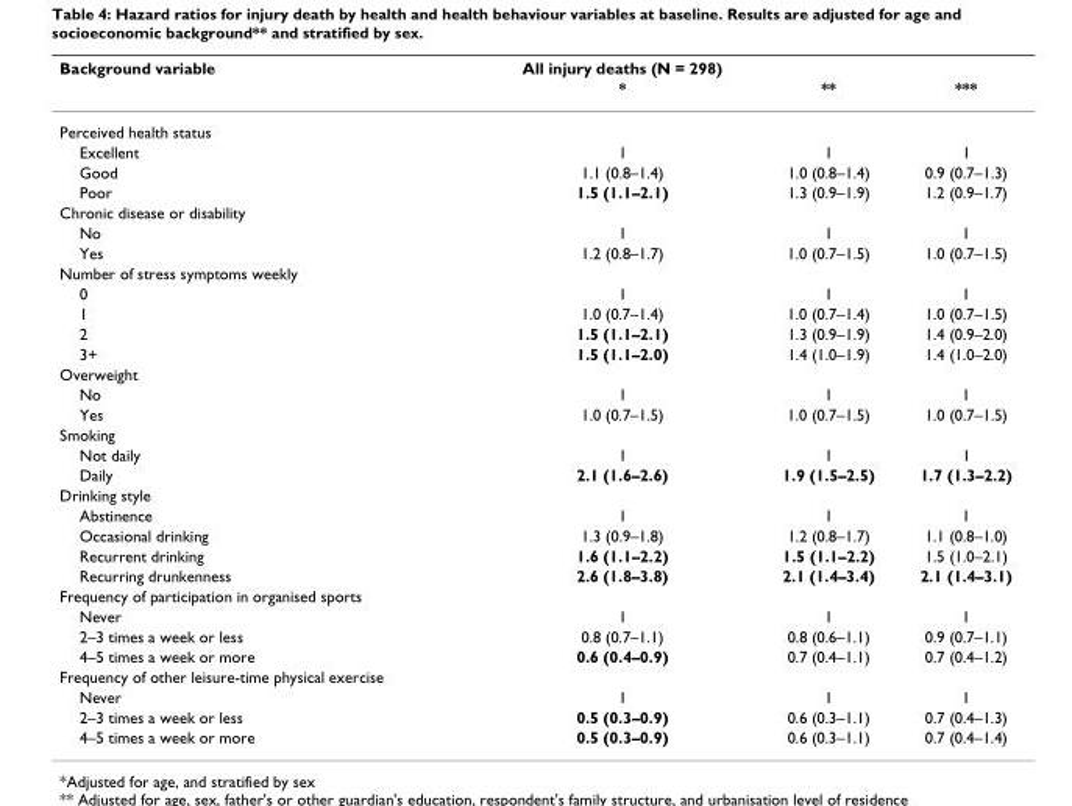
<table><thead><tr><td rowspan="2">Background variable</td><td rowspan="2">All injury deaths (N = 298) *</td><td rowspan="2">**</td><td rowspan="2">***</td></tr><tr></tr></thead><tbody><tr><td colspan="4">Perceived health status</td></tr><tr><td>Excellent</td><td>1</td><td>1</td><td>1</td></tr><tr><td>Good</td><td>1.1 (0.8–1.4)</td><td>1.0 (0.8–1.4)</td><td>0.9 (0.7–1.3)</td></tr><tr><td>Poor</td><td>1.5 (1.1–2.1)</td><td>1.3 (0.9–1.9)</td><td>1.2 (0.9–1.7)</td></tr><tr><td colspan="4">Chronic disease or disability</td></tr><tr><td>No</td><td>1</td><td>1</td><td>1</td></tr><tr><td>Yes</td><td>1.2 (0.8–1.7)</td><td>1.0 (0.7–1.5)</td><td>1.0 (0.7–1.5)</td></tr><tr><td colspan="4">Number of stress symptoms weekly</td></tr><tr><td>0</td><td>1</td><td>1</td><td>1</td></tr><tr><td>1</td><td>1.0 (0.7–1.4)</td><td>1.0 (0.7–1.4)</td><td>1.0 (0.7–1.5)</td></tr><tr><td>2</td><td>1.5 (1.1–2.1)</td><td>1.3 (0.9–1.9)</td><td>1.4 (0.9–2.0)</td></tr><tr><td>3+</td><td>1.5 (1.1–2.0)</td><td>1.4 (1.0–1.9)</td><td>1.4 (1.0–2.0)</td></tr><tr><td colspan="4">Overweight</td></tr><tr><td>No</td><td>1</td><td>1</td><td>1</td></tr><tr><td>Yes</td><td>1.0 (0.7–1.5)</td><td>1.0 (0.7–1.5)</td><td>1.0 (0.7–1.5)</td></tr><tr><td colspan="4">Smoking</td></tr><tr><td>Not daily</td><td>1</td><td>1</td><td>1</td></tr><tr><td>Daily</td><td>2.1 (1.6–2.6)</td><td>1.9 (1.5–2.5)</td><td>1.7 (1.3–2.2)</td></tr><tr><td colspan="4">Drinking style</td></tr><tr><td>Abstinence</td><td>1</td><td>1</td><td>1</td></tr><tr><td>Occasional drinking</td><td>1.3 (0.9–1.8)</td><td>1.2 (0.8–1.7)</td><td>1.1 (0.8–1.0)</td></tr><tr><td>Recurrent drinking</td><td>1.6 (1.1–2.2)</td><td>1.5 (1.1–2.2)</td><td>1.5 (1.0–2.1)</td></tr><tr><td>Recurring drunkenness</td><td>2.6 (1.8–3.8)</td><td>2.1 (1.4–3.4)</td><td>2.1 (1.4–3.1)</td></tr><tr><td colspan="4">Frequency of participation in organised sports</td></tr><tr><td>Never</td><td>1</td><td>1</td><td>1</td></tr><tr><td>2–3 times a week or less</td><td>0.8 (0.7–1.1)</td><td>0.8 (0.6–1.1)</td><td>0.9 (0.7–1.1)</td></tr><tr><td>4–5 times a week or more</td><td>0.6 (0.4–0.9)</td><td>0.7 (0.4–1.1)</td><td>0.7 (0.4–1.2)</td></tr><tr><td colspan="4">Frequency of other leisure-time physical exercise</td></tr><tr><td>Never</td><td>1</td><td>1</td><td>1</td></tr><tr><td>2–3 times a week or less</td><td>0.5 (0.3–0.9)</td><td>0.6 (0.3–1.1)</td><td>0.7 (0.4–1.3)</td></tr><tr><td>4–5 times a week or more</td><td>0.5 (0.3–0.9)</td><td>0.6 (0.3–1.1)</td><td>0.7 (0.4–1.4)</td></tr></tbody></table>